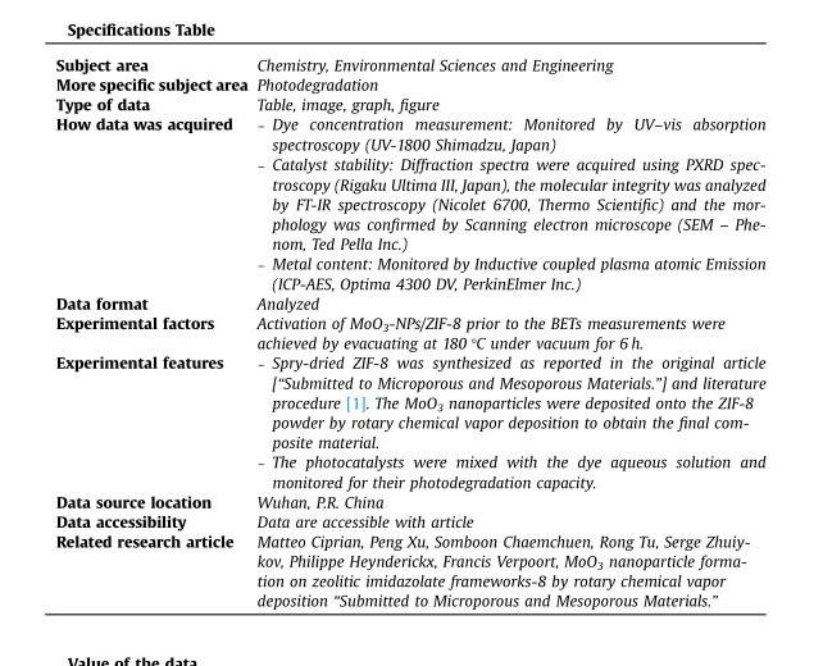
<table><tbody><tr><td>Subject area</td><td>Chemistry, Environmental Sciences and Engineering</td></tr><tr><td>More specific subject area</td><td>Photodegradation</td></tr><tr><td>Type of data</td><td>Table, image, graph, figure</td></tr><tr><td>How data was acquired</td><td>– Dye concentration measurement: Monitored by UV–vis absorption spectroscopy (UV-1800 Shimadzu, Japan) – Catalyst stability: Diffraction spectra were acquired using PXRD spec- troscopy (Rigaku Ultima III, Japan), the molecular integrity was analyzed by FT-IR spectroscopy (Nicolet 6700, Thermo Scientific) and the mor- phology was confirmed by Scanning electron microscope (SEM – Phe- nom, Ted Pella Inc.) – Metal content: Monitored by Inductive coupled plasma atomic Emission (ICP-AES, Optima 4300 DV, PerkinElmer Inc.)</td></tr><tr><td>Data format</td><td>Analyzed</td></tr><tr><td>Experimental factors</td><td>Activation of MoO<sub>3</sub>-NPs/ZIF-8 prior to the BETs measurements were achieved by evacuating at 180 °C under vacuum for 6 h.</td></tr><tr><td>Experimental features</td><td>– Spry-dried ZIF-8 was synthesized as reported in the original article [“Submitted to Microporous and Mesoporous Materials.”] and literature procedure [1]. The MoO3 nanoparticles were deposited onto the ZIF-8 powder by rotary chemical vapor deposition to obtain the final com- posite material. – The photocatalysts were mixed with the dye aqueous solution and monitored for their photodegradation capacity.</td></tr><tr><td>Data source location</td><td>Wuhan, P.R. China</td></tr><tr><td>Data accessibility</td><td>Data are accessible with article</td></tr><tr><td>Related research article</td><td>Matteo Ciprian, Peng Xu, Somboon Chaemchuen, Rong Tu, Serge Zhuiy- kov, Philippe Heynderickx, Francis Verpoort, MoO3 nanoparticle forma- tion on zeolitic imidazolate frameworks-8 by rotary chemical vapor deposition “Submitted to Microporous and Mesoporous Materials.”</td></tr></tbody></table>